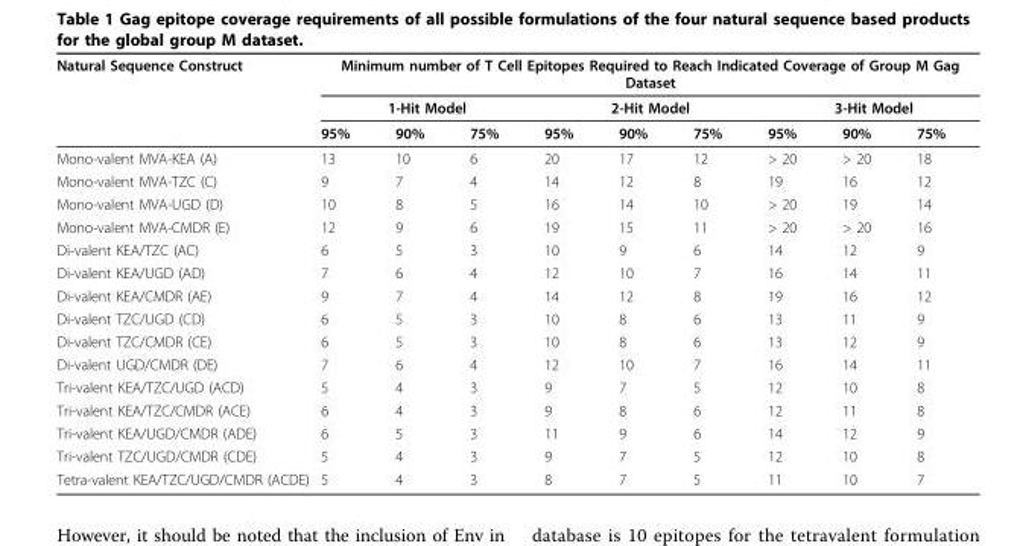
<table><thead><tr><td rowspan="3">Natural Sequence Construct</td><td colspan="9">Minimum number of T Cell Epitopes Required to Reach Indicated Coverage of Group M Gag Dataset</td></tr><tr><td colspan="3">1-Hit Model</td><td colspan="3">2-Hit Model</td><td colspan="3">3-Hit Model</td></tr><tr><td>95%</td><td>90%</td><td>75%</td><td>95%</td><td>90%</td><td>75%</td><td>95%</td><td>90%</td><td>75%</td></tr></thead><tbody><tr><td>Mono-valent MVA-KEA (A)</td><td>13</td><td>10</td><td>6</td><td>20</td><td>17</td><td>12</td><td>&gt; 20</td><td>&gt; 20</td><td>18</td></tr><tr><td>Mono-valent MVA-TZC (C)</td><td>9</td><td>7</td><td>4</td><td>14</td><td>12</td><td>8</td><td>19</td><td>16</td><td>12</td></tr><tr><td>Mono-valent MVA-UGD (D)</td><td>10</td><td>8</td><td>5</td><td>16</td><td>14</td><td>10</td><td>&gt; 20</td><td>19</td><td>14</td></tr><tr><td>Mono-valent MVA-CMDR (E)</td><td>12</td><td>9</td><td>6</td><td>19</td><td>15</td><td>11</td><td>&gt; 20</td><td>&gt; 20</td><td>16</td></tr><tr><td>Di-valent KEA/TZC (AC)</td><td>6</td><td>5</td><td>3</td><td>10</td><td>9</td><td>6</td><td>14</td><td>12</td><td>9</td></tr><tr><td>Di-valent KEA/UGD (AD)</td><td>7</td><td>6</td><td>4</td><td>12</td><td>10</td><td>7</td><td>16</td><td>14</td><td>11</td></tr><tr><td>Di-valent KEA/CMDR (AE)</td><td>9</td><td>7</td><td>4</td><td>14</td><td>12</td><td>8</td><td>19</td><td>16</td><td>12</td></tr><tr><td>Di-valent TZC/UGD (CD)</td><td>6</td><td>5</td><td>3</td><td>10</td><td>8</td><td>6</td><td>13</td><td>11</td><td>9</td></tr><tr><td>Di-valent TZC/CMDR (CE)</td><td>6</td><td>5</td><td>3</td><td>10</td><td>8</td><td>6</td><td>13</td><td>12</td><td>9</td></tr><tr><td>Di-valent UGD/CMDR (DE)</td><td>7</td><td>6</td><td>4</td><td>12</td><td>10</td><td>7</td><td>16</td><td>14</td><td>11</td></tr><tr><td>Tri-valent KEA/TZC/UGD (ACD)</td><td>5</td><td>4</td><td>3</td><td>9</td><td>7</td><td>5</td><td>12</td><td>10</td><td>8</td></tr><tr><td>Tri-valent KEA/TZC/CMDR (ACE)</td><td>6</td><td>4</td><td>3</td><td>9</td><td>8</td><td>6</td><td>12</td><td>11</td><td>8</td></tr><tr><td>Tri-valent KEA/UGD/CMDR (ADE)</td><td>6</td><td>5</td><td>3</td><td>11</td><td>9</td><td>6</td><td>14</td><td>12</td><td>9</td></tr><tr><td>Tri-valent TZC/UGD/CMDR (CDE)</td><td>5</td><td>4</td><td>3</td><td>9</td><td>7</td><td>5</td><td>12</td><td>10</td><td>8</td></tr><tr><td>Tetra-valent KEA/TZC/UGD/CMDR (ACDE)</td><td>5</td><td>4</td><td>3</td><td>8</td><td>7</td><td>5</td><td>11</td><td>10</td><td>7</td></tr></tbody></table>